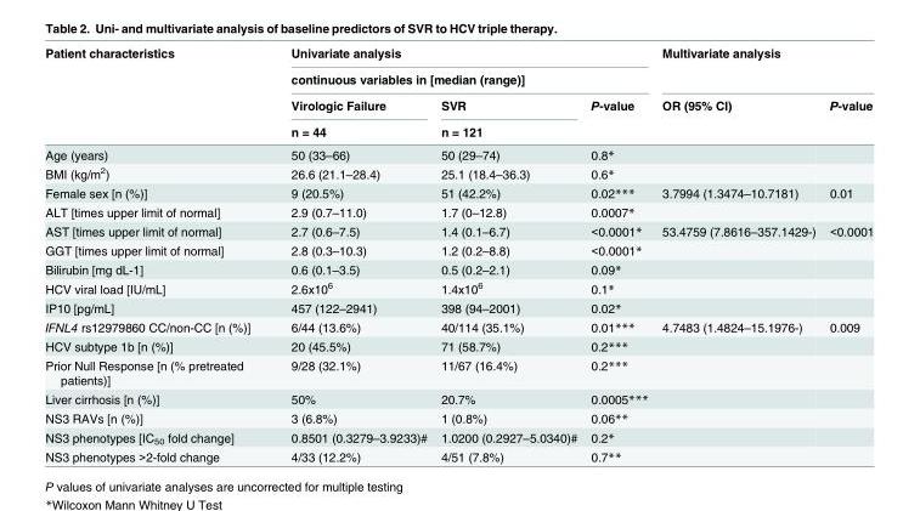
<table><thead><tr><td rowspan="4">Patient characteristics</td><td rowspan="2" colspan="3">Univariate analysis continuous variables in [median (range)]</td><td rowspan="2" colspan="2">Multivariate analysis</td></tr><tr></tr><tr><td rowspan="2">Virologic Failure n = 44</td><td rowspan="2">SVR n = 121</td><td rowspan="2">P-value</td><td rowspan="2">OR (95% CI)</td><td rowspan="2">P-value</td></tr><tr></tr></thead><tbody><tr><td>Age (years)</td><td>50 (33–66)</td><td>50 (29–74)</td><td>0.8*</td><td></td><td></td></tr><tr><td>BMI (kg/m<sup>2</sup>)</td><td>26.6 (21.1–28.4)</td><td>25.1 (18.4–36.3)</td><td>0.6*</td><td></td><td></td></tr><tr><td>Female sex [n (%)]</td><td>9 (20.5%)</td><td>51 (42.2%)</td><td>0.02***</td><td>3.7994 (1.3474–10.7181)</td><td>0.01</td></tr><tr><td>ALT [times upper limit of normal]</td><td>2.9 (0.7–11.0)</td><td>1.7 (0–12.8)</td><td>0.0007*</td><td></td><td></td></tr><tr><td>AST [times upper limit of normal]</td><td>2.7 (0.6–7.5)</td><td>1.4 (0.1–6.7)</td><td>&lt;0.0001*</td><td>53.4759 (7.8616–357.1429-)</td><td>&lt;0.0001</td></tr><tr><td>GGT [times upper limit of normal]</td><td>2.8 (0.3–10.3)</td><td>1.2 (0.2–8.8)</td><td>&lt;0.0001*</td><td></td><td></td></tr><tr><td>Bilirubin [mg dL-1]</td><td>0.6 (0.1–3.5)</td><td>0.5 (0.2–2.1)</td><td>0.09*</td><td></td><td></td></tr><tr><td>HCV viral load [IU/mL]</td><td>2.6x10<sup>6</sup></td><td>1.4x10<sup>6</sup></td><td>0.1*</td><td></td><td></td></tr><tr><td>IP10 [pg/mL]</td><td>457 (122–2941)</td><td>398 (94–2001)</td><td>0.02*</td><td></td><td></td></tr><tr><td>IFNL4 rs12979860 CC/non-CC [n (%)]</td><td>6/44 (13.6%)</td><td>40/114 (35.1%)</td><td>0.01***</td><td>4.7483 (1.4824–15.1976-)</td><td>0.009</td></tr><tr><td>HCV subtype 1b [n (%)]</td><td>20 (45.5%)</td><td>71 (58.7%)</td><td>0.2***</td><td></td><td></td></tr><tr><td>Prior Null Response [n (% pretreated patients)]</td><td>9/28 (32.1%)</td><td>11/67 (16.4%)</td><td>0.2***</td><td></td><td></td></tr><tr><td>Liver cirrhosis [n (%)]</td><td>50%</td><td>20.7%</td><td>0.0005***</td><td></td><td></td></tr><tr><td>NS3 RAVs [n (%)]</td><td>3 (6.8%)</td><td>1 (0.8%)</td><td>0.06**</td><td></td><td></td></tr><tr><td>NS3 phenotypes [IC<sub>50</sub> fold change]</td><td>0.8501 (0.3279–3.9233)#</td><td>1.0200 (0.2927–5.0340)#</td><td>0.2*</td><td></td><td></td></tr><tr><td>NS3 phenotypes &gt;2-fold change</td><td>4/33 (12.2%)</td><td>4/51 (7.8%)</td><td>0.7**</td><td></td><td></td></tr></tbody></table>